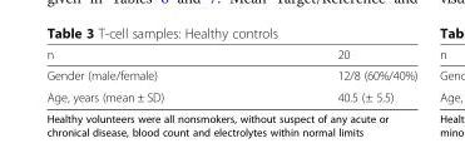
<table><thead><tr><td>n</td><td>20</td></tr></thead><tbody><tr><td>Gender (male/female)</td><td>12/8 (60%/40%)</td></tr><tr><td>Age, years (mean ± SD)</td><td>40.5 (± 5.5)</td></tr></tbody></table>